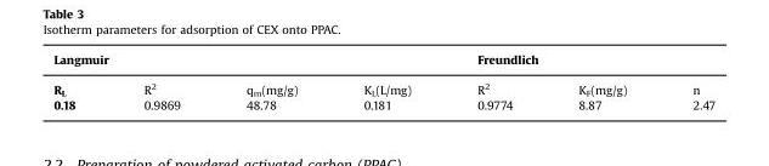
<table><thead><tr><td colspan="4">Langmuir</td><td colspan="3">Freundlich</td></tr><tr><td>R<sub>L</sub></td><td>R<sup>2</sup></td><td>q<sub>m</sub>(mg/g)</td><td>K<sub>L</sub>(L/mg)</td><td>R<sup>2</sup></td><td>K<sub>F</sub>(mg/g)</td><td>n</td></tr></thead><tbody><tr><td>0.18</td><td>0.9869</td><td>48.78</td><td>0.181</td><td>0.9774</td><td>8.87</td><td>2.47</td></tr></tbody></table>